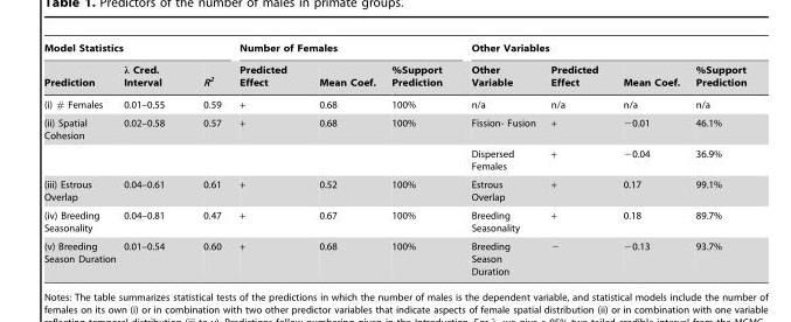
<table><thead><tr><td colspan="3">Model Statistics</td><td colspan="3">Number of Females</td><td colspan="4">Other Variables</td></tr><tr><td>Prediction</td><td>λ Cred. Interval</td><td>R<sup>2</sup></td><td>Predicted Effect</td><td>Mean Coef.</td><td>%Support Prediction</td><td>Other Variable</td><td>Predicted Effect</td><td>Mean Coef.</td><td>%Support Prediction</td></tr></thead><tbody><tr><td>(i) # Females</td><td>0.01–0.55</td><td>0.59</td><td>+</td><td>0.68</td><td>100%</td><td>n/a</td><td>n/a</td><td>n/a</td><td>n/a</td></tr><tr><td rowspan="2">(ii) Spatial Cohesion</td><td>0.02–0.58</td><td>0.57</td><td>+</td><td>0.68</td><td>100%</td><td>Fission- Fusion</td><td>+</td><td>−0.01</td><td>46.1%</td></tr><tr><td></td><td></td><td></td><td></td><td></td><td>Dispersed Females</td><td>+</td><td>−0.04</td><td>36.9%</td></tr><tr><td>(iii) Estrous Overlap</td><td>0.04–0.61</td><td>0.61</td><td>+</td><td>0.52</td><td>100%</td><td>Estrous Overlap</td><td>+</td><td>0.17</td><td>99.1%</td></tr><tr><td>(iv) Breeding Seasonality</td><td>0.04–0.81</td><td>0.47</td><td>+</td><td>0.67</td><td>100%</td><td>Breeding Seasonality</td><td>+</td><td>0.18</td><td>89.7%</td></tr><tr><td>(v) Breeding Season Duration</td><td>0.01–0.54</td><td>0.60</td><td>+</td><td>0.68</td><td>100%</td><td>Breeding Season Duration</td><td>−</td><td>−0.13</td><td>93.7%</td></tr></tbody></table>